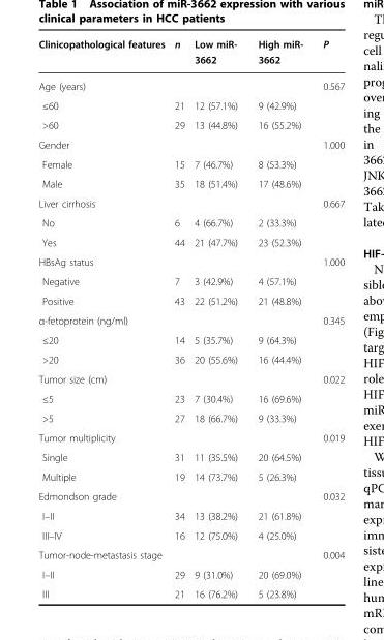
<table><thead><tr><td>Clinicopathological features</td><td>n</td><td>Low miR- 3662</td><td>High miR- 3662</td><td>P</td></tr></thead><tbody><tr><td>Age (years)</td><td></td><td></td><td></td><td>0.567</td></tr><tr><td>≤60</td><td>21</td><td>12 (57.1%)</td><td>9 (42.9%)</td><td></td></tr><tr><td>&gt;60</td><td>29</td><td>13 (44.8%)</td><td>16 (55.2%)</td><td></td></tr><tr><td>Gender</td><td></td><td></td><td></td><td>1.000</td></tr><tr><td>Female</td><td>15</td><td>7 (46.7%)</td><td>8 (53.3%)</td><td></td></tr><tr><td>Male</td><td>35</td><td>18 (51.4%)</td><td>17 (48.6%)</td><td></td></tr><tr><td>Liver cirrhosis</td><td></td><td></td><td></td><td>0.667</td></tr><tr><td>No</td><td>6</td><td>4 (66.7%)</td><td>2 (33.3%)</td><td></td></tr><tr><td>Yes</td><td>44</td><td>21 (47.7%)</td><td>23 (52.3%)</td><td></td></tr><tr><td>HBsAg status</td><td></td><td></td><td></td><td>1.000</td></tr><tr><td>Negative</td><td>7</td><td>3 (42.9%)</td><td>4 (57.1%)</td><td></td></tr><tr><td>Positive</td><td>43</td><td>22 (51.2%)</td><td>21 (48.8%)</td><td></td></tr><tr><td>α-fetoprotein (ng/ml)</td><td></td><td></td><td></td><td>0.345</td></tr><tr><td>≤20</td><td>14</td><td>5 (35.7%)</td><td>9 (64.3%)</td><td></td></tr><tr><td>&gt;20</td><td>36</td><td>20 (55.6%)</td><td>16 (44.4%)</td><td></td></tr><tr><td>Tumor size (cm)</td><td></td><td></td><td></td><td>0.022</td></tr><tr><td>≤5</td><td>23</td><td>7 (30.4%)</td><td>16 (69.6%)</td><td></td></tr><tr><td>&gt;5</td><td>27</td><td>18 (66.7%)</td><td>9 (33.3%)</td><td></td></tr><tr><td>Tumor multiplicity</td><td></td><td></td><td></td><td>0.019</td></tr><tr><td>Single</td><td>31</td><td>11 (35.5%)</td><td>20 (64.5%)</td><td></td></tr><tr><td>Multiple</td><td>19</td><td>14 (73.7%)</td><td>5 (26.3%)</td><td></td></tr><tr><td>Edmondson grade</td><td></td><td></td><td></td><td>0.032</td></tr><tr><td>I–II</td><td>34</td><td>13 (38.2%)</td><td>21 (61.8%)</td><td></td></tr><tr><td>III–IV</td><td>16</td><td>12 (75.0%)</td><td>4 (25.0%)</td><td></td></tr><tr><td>Tumor-node-metastasis stage</td><td></td><td></td><td></td><td>0.004</td></tr><tr><td>I–II</td><td>29</td><td>9 (31.0%)</td><td>20 (69.0%)</td><td></td></tr><tr><td>III</td><td>21</td><td>16 (76.2%)</td><td>5 (23.8%)</td><td></td></tr></tbody></table>